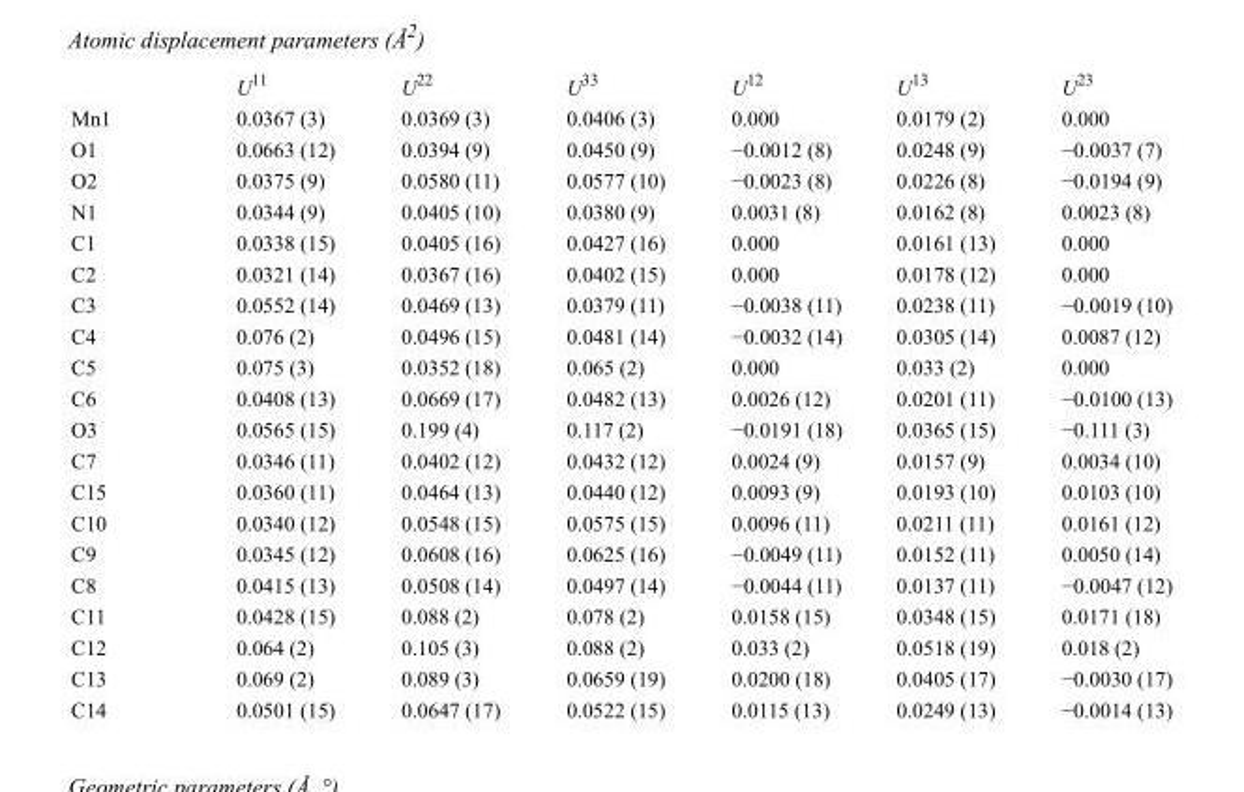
<table><thead><tr><td></td><td>U<sup>11</sup></td><td>U<sup>22</sup></td><td>U<sup>33</sup></td><td>U<sup>12</sup></td><td>U<sup>13</sup></td><td>U<sup>23</sup></td></tr></thead><tbody><tr><td>Mn1</td><td>0.0367 (3)</td><td>0.0369 (3)</td><td>0.0406 (3)</td><td>0.000</td><td>0.0179 (2)</td><td>0.000</td></tr><tr><td>O1</td><td>0.0663 (12)</td><td>0.0394 (9)</td><td>0.0450 (9)</td><td>−0.0012 (8)</td><td>0.0248 (9)</td><td>−0.0037 (7)</td></tr><tr><td>O2</td><td>0.0375 (9)</td><td>0.0580 (11)</td><td>0.0577 (10)</td><td>−0.0023 (8)</td><td>0.0226 (8)</td><td>−0.0194 (9)</td></tr><tr><td>N1</td><td>0.0344 (9)</td><td>0.0405 (10)</td><td>0.0380 (9)</td><td>0.0031 (8)</td><td>0.0162 (8)</td><td>0.0023 (8)</td></tr><tr><td>C1</td><td>0.0338 (15)</td><td>0.0405 (16)</td><td>0.0427 (16)</td><td>0.000</td><td>0.0161 (13)</td><td>0.000</td></tr><tr><td>C2</td><td>0.0321 (14)</td><td>0.0367 (16)</td><td>0.0402 (15)</td><td>0.000</td><td>0.0178 (12)</td><td>0.000</td></tr><tr><td>C3</td><td>0.0552 (14)</td><td>0.0469 (13)</td><td>0.0379 (11)</td><td>−0.0038 (11)</td><td>0.0238 (11)</td><td>−0.0019 (10)</td></tr><tr><td>C4</td><td>0.076 (2)</td><td>0.0496 (15)</td><td>0.0481 (14)</td><td>−0.0032 (14)</td><td>0.0305 (14)</td><td>0.0087 (12)</td></tr><tr><td>C5</td><td>0.075 (3)</td><td>0.0352 (18)</td><td>0.065 (2)</td><td>0.000</td><td>0.033 (2)</td><td>0.000</td></tr><tr><td>C6</td><td>0.0408 (13)</td><td>0.0669 (17)</td><td>0.0482 (13)</td><td>0.0026 (12)</td><td>0.0201 (11)</td><td>−0.0100 (13)</td></tr><tr><td>O3</td><td>0.0565 (15)</td><td>0.199 (4)</td><td>0.117 (2)</td><td>−0.0191 (18)</td><td>0.0365 (15)</td><td>−0.111 (3)</td></tr><tr><td>C7</td><td>0.0346 (11)</td><td>0.0402 (12)</td><td>0.0432 (12)</td><td>0.0024 (9)</td><td>0.0157 (9)</td><td>0.0034 (10)</td></tr><tr><td>C15</td><td>0.0360 (11)</td><td>0.0464 (13)</td><td>0.0440 (12)</td><td>0.0093 (9)</td><td>0.0193 (10)</td><td>0.0103 (10)</td></tr><tr><td>C10</td><td>0.0340 (12)</td><td>0.0548 (15)</td><td>0.0575 (15)</td><td>0.0096 (11)</td><td>0.0211 (11)</td><td>0.0161 (12)</td></tr><tr><td>C9</td><td>0.0345 (12)</td><td>0.0608 (16)</td><td>0.0625 (16)</td><td>−0.0049 (11)</td><td>0.0152 (11)</td><td>0.0050 (14)</td></tr><tr><td>C8</td><td>0.0415 (13)</td><td>0.0508 (14)</td><td>0.0497 (14)</td><td>−0.0044 (11)</td><td>0.0137 (11)</td><td>−0.0047 (12)</td></tr><tr><td>C11</td><td>0.0428 (15)</td><td>0.088 (2)</td><td>0.078 (2)</td><td>0.0158 (15)</td><td>0.0348 (15)</td><td>0.0171 (18)</td></tr><tr><td>C12</td><td>0.064 (2)</td><td>0.105 (3)</td><td>0.088 (2)</td><td>0.033 (2)</td><td>0.0518 (19)</td><td>0.018 (2)</td></tr><tr><td>C13</td><td>0.069 (2)</td><td>0.089 (3)</td><td>0.0659 (19)</td><td>0.0200 (18)</td><td>0.0405 (17)</td><td>−0.0030 (17)</td></tr><tr><td>C14</td><td>0.0501 (15)</td><td>0.0647 (17)</td><td>0.0522 (15)</td><td>0.0115 (13)</td><td>0.0249 (13)</td><td>−0.0014 (13)</td></tr></tbody></table>